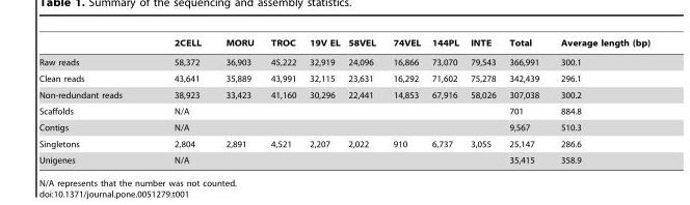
<table><thead><tr><td></td><td>2CELL</td><td>MORU</td><td>TROC</td><td>19V EL</td><td>58VEL</td><td>74VEL</td><td>144PL</td><td>INTE</td><td>Total</td><td>Average length (bp)</td></tr></thead><tbody><tr><td>Raw reads</td><td>58,372</td><td>36,903</td><td>45,222</td><td>32,919</td><td>24,096</td><td>16,866</td><td>73,070</td><td>79,543</td><td>366,991</td><td>300.1</td></tr><tr><td>Clean reads</td><td>43,641</td><td>35,889</td><td>43,991</td><td>32,115</td><td>23,631</td><td>16,292</td><td>71,602</td><td>75,278</td><td>342,439</td><td>296.1</td></tr><tr><td>Non-redundant reads</td><td>38,923</td><td>33,423</td><td>41,160</td><td>30,296</td><td>22,441</td><td>14,853</td><td>67,916</td><td>58,026</td><td>307,038</td><td>300.2</td></tr><tr><td>Scaffolds</td><td colspan="8">N/A</td><td>701</td><td>884.8</td></tr><tr><td>Contigs</td><td colspan="8">N/A</td><td>9,567</td><td>510.3</td></tr><tr><td>Singletons</td><td>2,804</td><td>2,891</td><td>4,521</td><td>2,207</td><td>2,022</td><td>910</td><td>6,737</td><td>3,055</td><td>25,147</td><td>286.6</td></tr><tr><td>Unigenes</td><td colspan="8">N/A</td><td>35,415</td><td>358.9</td></tr></tbody></table>